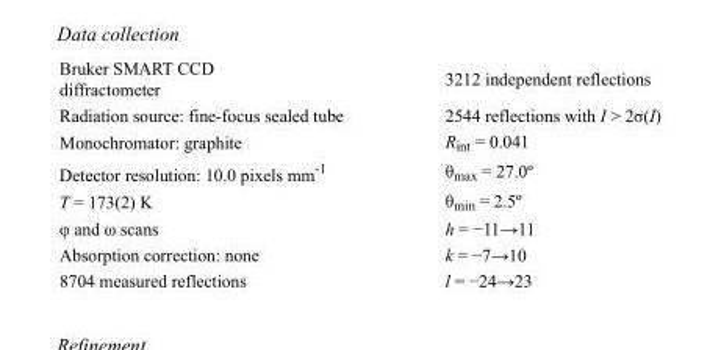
<table><tbody><tr><td>Bruker SMART CCD diffractometer</td><td>3212 independent reflections</td></tr><tr><td>Radiation source: fine-focus sealed tube</td><td>2544 reflections with I &gt; 2σ(I)</td></tr><tr><td>Monochromator: graphite</td><td>R<sub>int</sub> = 0.041</td></tr><tr><td>Detector resolution: 10.0 pixels mm<sup>-1</sup></td><td>θ<sub>max</sub> = 27.0º</td></tr><tr><td>T = 173(2) K</td><td>θ<sub>min</sub> = 2.5º</td></tr><tr><td>φ and ω scans</td><td>h = −11→11</td></tr><tr><td>Absorption correction: none</td><td>k = −7→10</td></tr><tr><td>8704 measured reflections</td><td>l = −24→23</td></tr></tbody></table>